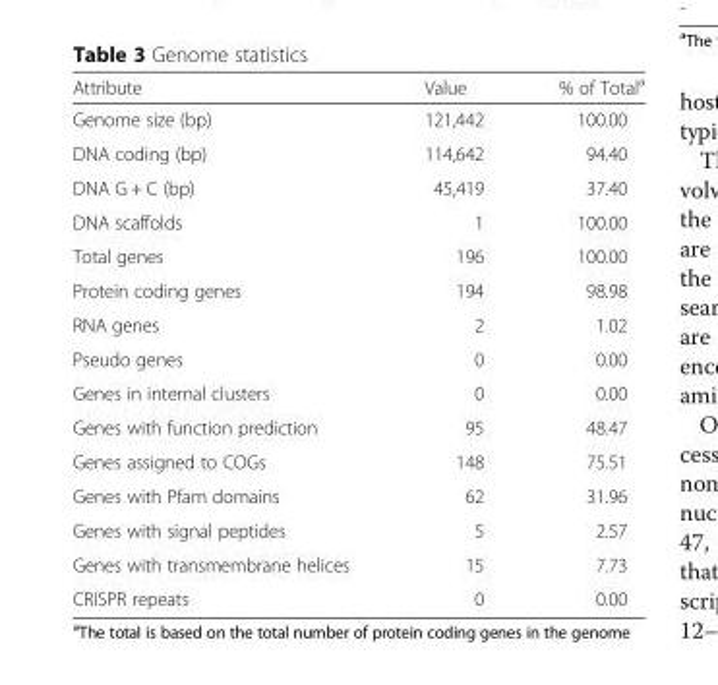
<table><thead><tr><td>Attribute</td><td>Value</td><td>% of Total<sup>a</sup></td></tr></thead><tbody><tr><td>Genome size (bp)</td><td>121,442</td><td>100.00</td></tr><tr><td>DNA coding (bp)</td><td>114,642</td><td>94.40</td></tr><tr><td>DNA G + C (bp)</td><td>45,419</td><td>37.40</td></tr><tr><td>DNA scaffolds</td><td>1</td><td>100.00</td></tr><tr><td>Total genes</td><td>196</td><td>100.00</td></tr><tr><td>Protein coding genes</td><td>194</td><td>98.98</td></tr><tr><td>RNA genes</td><td>2</td><td>1.02</td></tr><tr><td>Pseudo genes</td><td>0</td><td>0.00</td></tr><tr><td>Genes in internal clusters</td><td>0</td><td>0.00</td></tr><tr><td>Genes with function prediction</td><td>95</td><td>48.47</td></tr><tr><td>Genes assigned to COGs</td><td>148</td><td>75.51</td></tr><tr><td>Genes with Pfam domains</td><td>62</td><td>31.96</td></tr><tr><td>Genes with signal peptides</td><td>5</td><td>2.57</td></tr><tr><td>Genes with transmembrane helices</td><td>15</td><td>7.73</td></tr><tr><td>CRISPR repeats</td><td>0</td><td>0.00</td></tr></tbody></table>